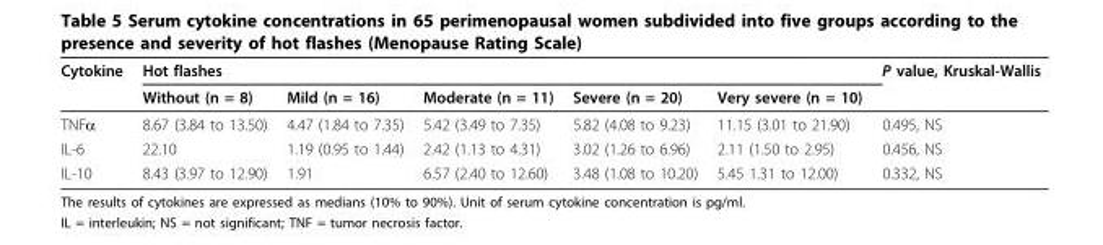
<table><thead><tr><td rowspan="2">Cytokine</td><td colspan="5">Hot flashes</td><td rowspan="2">P value, Kruskal-Wallis</td></tr><tr><td>Without (n = 8)</td><td>Mild (n = 16)</td><td>Moderate (n = 11)</td><td>Severe (n = 20)</td><td>Very severe (n = 10)</td></tr></thead><tbody><tr><td>TNFα</td><td>8.67 (3.84 to 13.50)</td><td>4.47 (1.84 to 7.35)</td><td>5.42 (3.49 to 7.35)</td><td>5.82 (4.08 to 9.23)</td><td>11.15 (3.01 to 21.90)</td><td>0.495, NS</td></tr><tr><td>IL-6</td><td>22.10</td><td>1.19 (0.95 to 1.44)</td><td>2.42 (1.13 to 4.31)</td><td>3.02 (1.26 to 6.96)</td><td>2.11 (1.50 to 2.95)</td><td>0.456, NS</td></tr><tr><td>IL-10</td><td>8.43 (3.97 to 12.90)</td><td>1.91</td><td>6.57 (2.40 to 12.60)</td><td>3.48 (1.08 to 10.20)</td><td>5.45 1.31 to 12.00)</td><td>0.332, NS</td></tr></tbody></table>